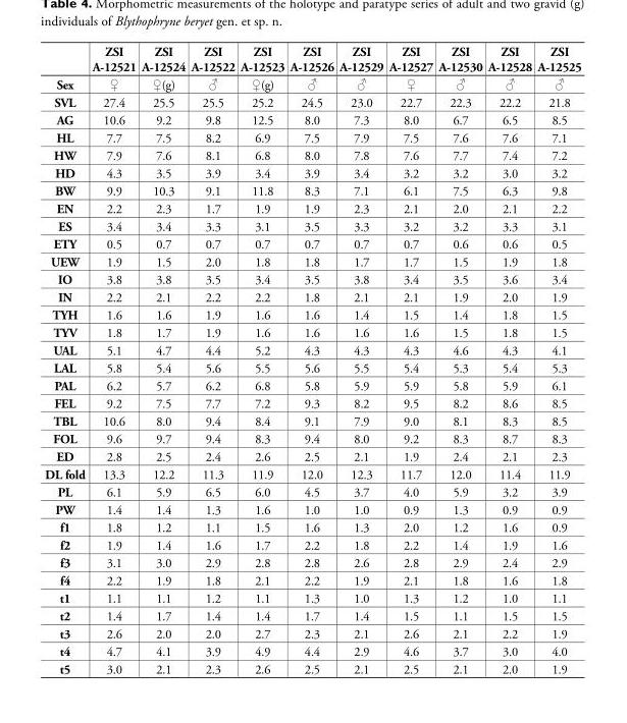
<table><thead><tr><td></td><td>ZSI A-12521</td><td>ZSI A-12524</td><td>ZSI A-12522</td><td>ZSI A-12523</td><td>ZSI A-12526</td><td>ZSI A-12529</td><td>ZSI A-12527</td><td>ZSI A-12530</td><td>ZSI A-12528</td><td>ZSI A-12525</td></tr></thead><tbody><tr><td>Sex</td><td>♀</td><td>♀(g)</td><td>♂</td><td>♀(g)</td><td>♂</td><td>♂</td><td>♀</td><td>♂</td><td>♂</td><td>♂</td></tr><tr><td>SVL</td><td>27.4</td><td>25.5</td><td>25.5</td><td>25.2</td><td>24.5</td><td>23.0</td><td>22.7</td><td>22.3</td><td>22.2</td><td>21.8</td></tr><tr><td>AG</td><td>10.6</td><td>9.2</td><td>9.8</td><td>12.5</td><td>8.0</td><td>7.3</td><td>8.0</td><td>6.7</td><td>6.5</td><td>8.5</td></tr><tr><td>HL</td><td>7.7</td><td>7.5</td><td>8.2</td><td>6.9</td><td>7.5</td><td>7.9</td><td>7.5</td><td>7.6</td><td>7.6</td><td>7.1</td></tr><tr><td>HW</td><td>7.9</td><td>7.6</td><td>8.1</td><td>6.8</td><td>8.0</td><td>7.8</td><td>7.6</td><td>7.7</td><td>7.4</td><td>7.2</td></tr><tr><td>HD</td><td>4.3</td><td>3.5</td><td>3.9</td><td>3.4</td><td>3.9</td><td>3.4</td><td>3.2</td><td>3.2</td><td>3.0</td><td>3.2</td></tr><tr><td>BW</td><td>9.9</td><td>10.3</td><td>9.1</td><td>11.8</td><td>8.3</td><td>7.1</td><td>6.1</td><td>7.5</td><td>6.3</td><td>9.8</td></tr><tr><td>EN</td><td>2.2</td><td>2.3</td><td>1.7</td><td>1.9</td><td>1.9</td><td>2.3</td><td>2.1</td><td>2.0</td><td>2.1</td><td>2.2</td></tr><tr><td>ES</td><td>3.4</td><td>3.4</td><td>3.3</td><td>3.1</td><td>3.5</td><td>3.3</td><td>3.2</td><td>3.2</td><td>3.3</td><td>3.1</td></tr><tr><td>ETY</td><td>0.5</td><td>0.7</td><td>0.7</td><td>0.7</td><td>0.7</td><td>0.7</td><td>0.7</td><td>0.6</td><td>0.6</td><td>0.5</td></tr><tr><td>UEW</td><td>1.9</td><td>1.5</td><td>2.0</td><td>1.8</td><td>1.8</td><td>1.7</td><td>1.7</td><td>1.5</td><td>1.9</td><td>1.8</td></tr><tr><td>IO</td><td>3.8</td><td>3.8</td><td>3.5</td><td>3.4</td><td>3.5</td><td>3.8</td><td>3.4</td><td>3.5</td><td>3.6</td><td>3.4</td></tr><tr><td>IN</td><td>2.2</td><td>2.1</td><td>2.2</td><td>2.2</td><td>1.8</td><td>2.1</td><td>2.1</td><td>1.9</td><td>2.0</td><td>1.9</td></tr><tr><td>TYH</td><td>1.6</td><td>1.6</td><td>1.9</td><td>1.6</td><td>1.6</td><td>1.4</td><td>1.5</td><td>1.4</td><td>1.8</td><td>1.5</td></tr><tr><td>TYV</td><td>1.8</td><td>1.7</td><td>1.9</td><td>1.6</td><td>1.6</td><td>1.6</td><td>1.6</td><td>1.5</td><td>1.8</td><td>1.5</td></tr><tr><td>UAL</td><td>5.1</td><td>4.7</td><td>4.4</td><td>5.2</td><td>4.3</td><td>4.3</td><td>4.3</td><td>4.6</td><td>4.3</td><td>4.1</td></tr><tr><td>LAL</td><td>5.8</td><td>5.4</td><td>5.6</td><td>5.5</td><td>5.6</td><td>5.5</td><td>5.4</td><td>5.3</td><td>5.4</td><td>5.3</td></tr><tr><td>PAL</td><td>6.2</td><td>5.7</td><td>6.2</td><td>6.8</td><td>5.8</td><td>5.9</td><td>5.9</td><td>5.8</td><td>5.9</td><td>6.1</td></tr><tr><td>FEL</td><td>9.2</td><td>7.5</td><td>7.7</td><td>7.2</td><td>9.3</td><td>8.2</td><td>9.5</td><td>8.2</td><td>8.6</td><td>8.5</td></tr><tr><td>TBL</td><td>10.6</td><td>8.0</td><td>9.4</td><td>8.4</td><td>9.1</td><td>7.9</td><td>9.0</td><td>8.1</td><td>8.3</td><td>8.5</td></tr><tr><td>FOL</td><td>9.6</td><td>9.7</td><td>9.4</td><td>8.3</td><td>9.4</td><td>8.0</td><td>9.2</td><td>8.3</td><td>8.7</td><td>8.3</td></tr><tr><td>ED</td><td>2.8</td><td>2.5</td><td>2.4</td><td>2.6</td><td>2.5</td><td>2.1</td><td>1.9</td><td>2.4</td><td>2.1</td><td>2.3</td></tr><tr><td>DL fold</td><td>13.3</td><td>12.2</td><td>11.3</td><td>11.9</td><td>12.0</td><td>12.3</td><td>11.7</td><td>12.0</td><td>11.4</td><td>11.9</td></tr><tr><td>PL</td><td>6.1</td><td>5.9</td><td>6.5</td><td>6.0</td><td>4.5</td><td>3.7</td><td>4.0</td><td>5.9</td><td>3.2</td><td>3.9</td></tr><tr><td>PW</td><td>1.4</td><td>1.4</td><td>1.3</td><td>1.6</td><td>1.0</td><td>1.0</td><td>0.9</td><td>1.3</td><td>0.9</td><td>0.9</td></tr><tr><td>f1</td><td>1.8</td><td>1.2</td><td>1.1</td><td>1.5</td><td>1.6</td><td>1.3</td><td>2.0</td><td>1.2</td><td>1.6</td><td>0.9</td></tr><tr><td>f2</td><td>1.9</td><td>1.4</td><td>1.6</td><td>1.7</td><td>2.2</td><td>1.8</td><td>2.2</td><td>1.4</td><td>1.9</td><td>1.6</td></tr><tr><td>f3</td><td>3.1</td><td>3.0</td><td>2.9</td><td>2.8</td><td>2.8</td><td>2.6</td><td>2.8</td><td>2.9</td><td>2.4</td><td>2.9</td></tr><tr><td>f4</td><td>2.2</td><td>1.9</td><td>1.8</td><td>2.1</td><td>2.2</td><td>1.9</td><td>2.1</td><td>1.8</td><td>1.6</td><td>1.8</td></tr><tr><td>t1</td><td>1.1</td><td>1.1</td><td>1.2</td><td>1.1</td><td>1.3</td><td>1.0</td><td>1.3</td><td>1.2</td><td>1.0</td><td>1.1</td></tr><tr><td>t2</td><td>1.4</td><td>1.7</td><td>1.4</td><td>1.4</td><td>1.7</td><td>1.4</td><td>1.5</td><td>1.1</td><td>1.5</td><td>1.5</td></tr><tr><td>t3</td><td>2.6</td><td>2.0</td><td>2.0</td><td>2.7</td><td>2.3</td><td>2.1</td><td>2.6</td><td>2.1</td><td>2.2</td><td>1.9</td></tr><tr><td>t4</td><td>4.7</td><td>4.1</td><td>3.9</td><td>4.9</td><td>4.4</td><td>2.9</td><td>4.6</td><td>3.7</td><td>3.0</td><td>4.0</td></tr><tr><td>t5</td><td>3.0</td><td>2.1</td><td>2.3</td><td>2.6</td><td>2.5</td><td>2.1</td><td>2.5</td><td>2.1</td><td>2.0</td><td>1.9</td></tr></tbody></table>